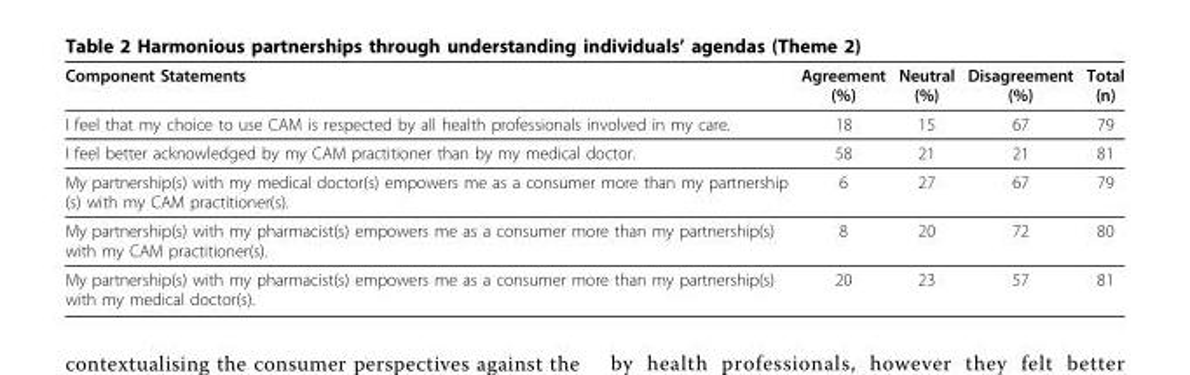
<table><thead><tr><td>Component Statements</td><td>Agreement (%)</td><td>Neutral (%)</td><td>Disagreement (%)</td><td>Total (n)</td></tr></thead><tbody><tr><td>I feel that my choice to use CAM is respected by all health professionals involved in my care.</td><td>18</td><td>15</td><td>67</td><td>79</td></tr><tr><td>I feel better acknowledged by my CAM practitioner than by my medical doctor.</td><td>58</td><td>21</td><td>21</td><td>81</td></tr><tr><td>My partnership(s) with my medical doctor(s) empowers me as a consumer more than my partnership (s) with my CAM practitioner(s).</td><td>6</td><td>27</td><td>67</td><td>79</td></tr><tr><td>My partnership(s) with my pharmacist(s) empowers me as a consumer more than my partnership(s) with my CAM practitioner(s).</td><td>8</td><td>20</td><td>72</td><td>80</td></tr><tr><td>My partnership(s) with my pharmacist(s) empowers me as a consumer more than my partnership(s) with my medical doctor(s).</td><td>20</td><td>23</td><td>57</td><td>81</td></tr></tbody></table>